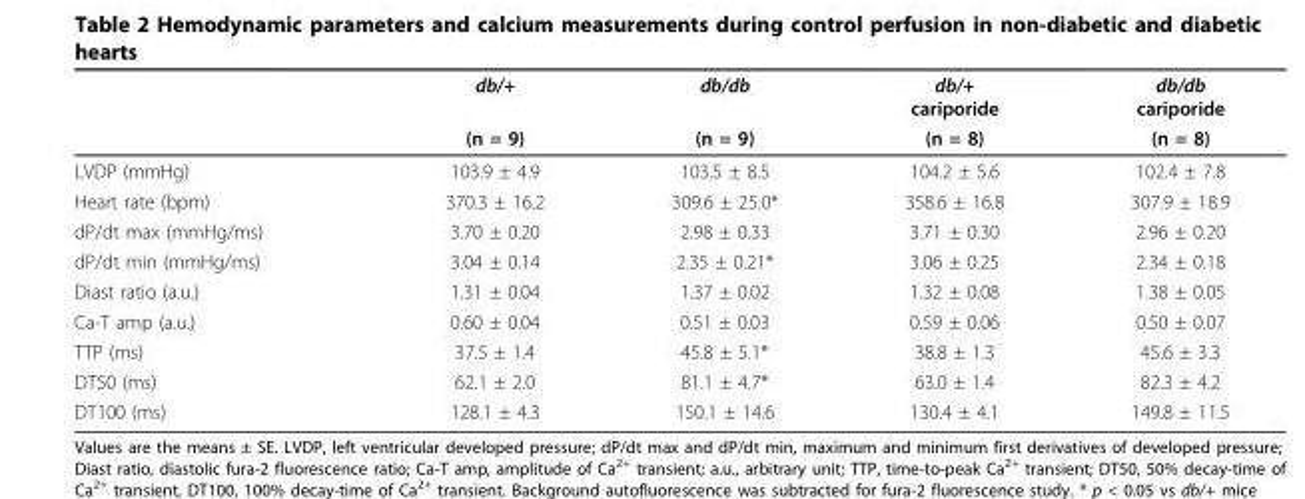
<table><thead><tr><td></td><td>db/+</td><td>db/db</td><td>db/+ cariporide</td><td>db/db cariporide</td></tr></thead><tbody><tr><td></td><td>(n = 9)</td><td>(n = 9)</td><td>(n = 8)</td><td>(n = 8)</td></tr><tr><td>LVDP (mmHg)</td><td>103.9 ± 4.9</td><td>103.5 ± 8.5</td><td>104.2 ± 5.6</td><td>102.4 ± 7.8</td></tr><tr><td>Heart rate (bpm)</td><td>370.3 ± 16.2</td><td>309.6 ± 25.0*</td><td>358.6 ± 16.8</td><td>307.9 ± 18.9</td></tr><tr><td>dP/dt max (mmHg/ms)</td><td>3.70 ± 0.20</td><td>2.98 ± 0.33</td><td>3.71 ± 0.30</td><td>2.96 ± 0.20</td></tr><tr><td>dP/dt min (mmHg/ms)</td><td>3.04 ± 0.14</td><td>2.35 ± 0.21*</td><td>3.06 ± 0.25</td><td>2.34 ± 0.18</td></tr><tr><td>Diast ratio (a.u.)</td><td>1.31 ± 0.04</td><td>1.37 ± 0.02</td><td>1.32 ± 0.08</td><td>1.38 ± 0.05</td></tr><tr><td>Ca-T amp (a.u.)</td><td>0.60 ± 0.04</td><td>0.51 ± 0.03</td><td>0.59 ± 0.06</td><td>0.50 ± 0.07</td></tr><tr><td>TTP (ms)</td><td>37.5 ± 1.4</td><td>45.8 ± 5.1*</td><td>38.8 ± 1.3</td><td>45.6 ± 3.3</td></tr><tr><td>DT50 (ms)</td><td>62.1 ± 2.0</td><td>81.1 ± 4.7*</td><td>63.0 ± 1.4</td><td>82.3 ± 4.2</td></tr><tr><td>DT100 (ms)</td><td>128.1 ± 4.3</td><td>150.1 ± 14.6</td><td>130.4 ± 4.1</td><td>149.8 ± 11.5</td></tr></tbody></table>